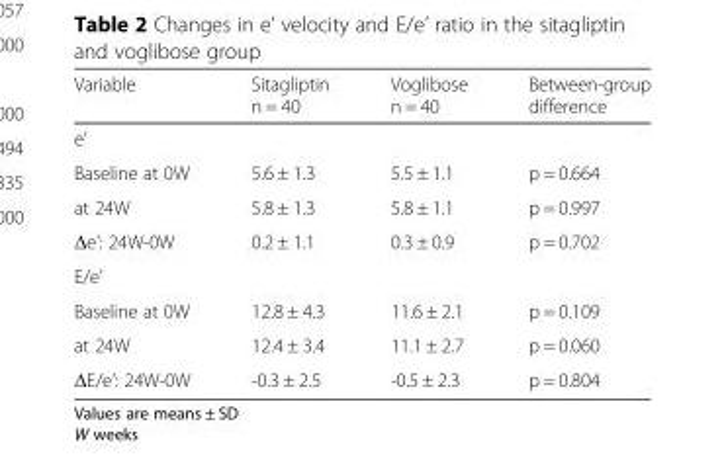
<table><thead><tr><td>Variable</td><td>Sitagliptin n = 40</td><td>Voglibose n = 40</td><td>Between-group difference</td></tr></thead><tbody><tr><td colspan="4">e’</td></tr><tr><td>Baseline at 0W</td><td>5.6 ± 1.3</td><td>5.5 ± 1.1</td><td>p = 0.664</td></tr><tr><td>at 24W</td><td>5.8 ± 1.3</td><td>5.8 ± 1.1</td><td>p = 0.997</td></tr><tr><td>Δe’: 24W-0W</td><td>0.2 ± 1.1</td><td>0.3 ± 0.9</td><td>p = 0.702</td></tr><tr><td colspan="4">E/e’</td></tr><tr><td>Baseline at 0W</td><td>12.8 ± 4.3</td><td>11.6 ± 2.1</td><td>p = 0.109</td></tr><tr><td>at 24W</td><td>12.4 ± 3.4</td><td>11.1 ± 2.7</td><td>p = 0.060</td></tr><tr><td>ΔE/e’: 24W-0W</td><td>-0.3 ± 2.5</td><td>-0.5 ± 2.3</td><td>p = 0.804</td></tr></tbody></table>